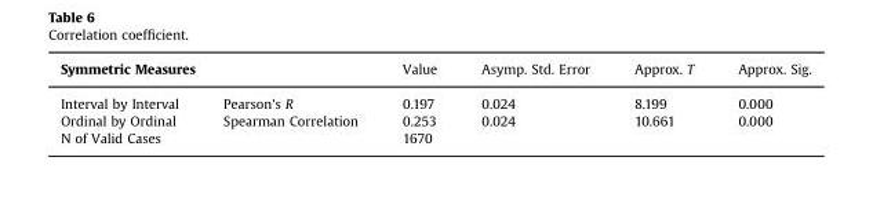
<table><thead><tr><td colspan="2">Symmetric Measures</td><td rowspan="2">Value 0.197</td><td rowspan="2">Asymp. Std. Error 0.024</td><td rowspan="2">Approx. T 8.199</td><td rowspan="2">Approx. Sig. 0.000</td></tr><tr><td>Interval by Interval</td><td>Pearson&#x27;s R</td></tr></thead><tbody><tr><td>Ordinal by Ordinal</td><td>Spearman Correlation</td><td>0.253</td><td>0.024</td><td>10.661</td><td>0.000</td></tr><tr><td colspan="2">N of Valid Cases</td><td>1670</td><td></td><td></td><td></td></tr></tbody></table>